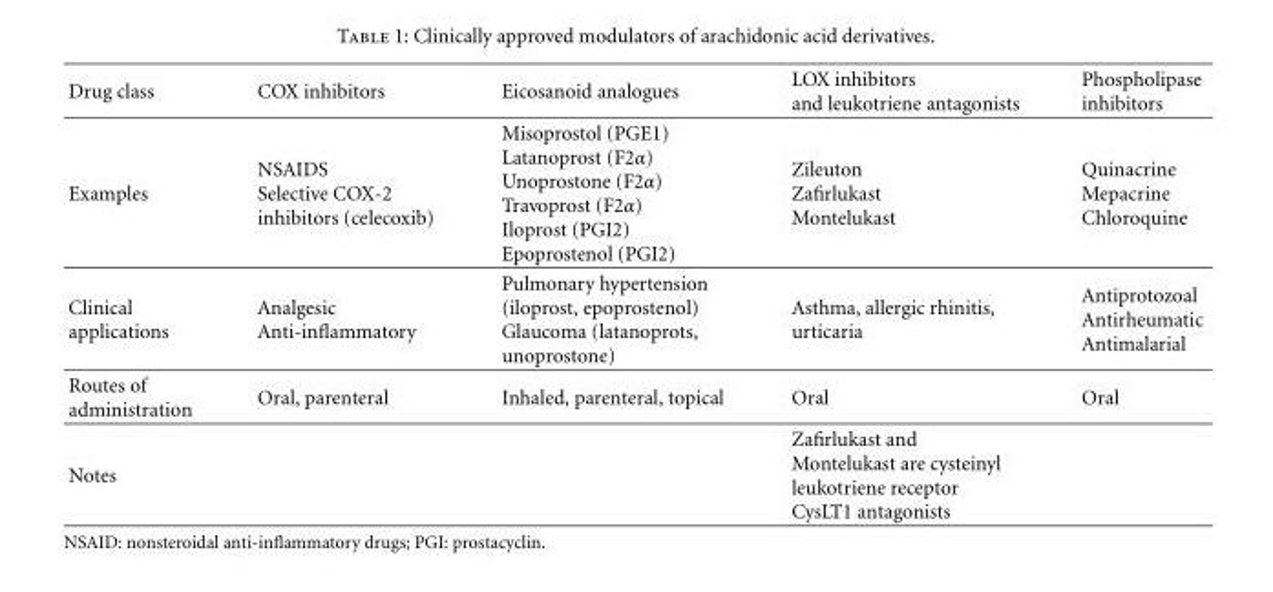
<table><thead><tr><td>Drug class</td><td>COX inhibitors</td><td>Eicosanoid analogues</td><td>LOX inhibitors and leukotriene antagonists</td><td>Phospholipase inhibitors</td></tr></thead><tbody><tr><td>Examples</td><td>NSAIDS Selective COX-2 inhibitors (celecoxib)</td><td>Misoprostol (PGE1) Latanoprost (F2α) Unoprostone (F2α) Travoprost (F2α) Iloprost (PGI2) Epoprostenol (PGI2)</td><td>Zileuton Zafirlukast Montelukast</td><td>Quinacrine Mepacrine Chloroquine</td></tr><tr><td>Clinical applications</td><td>Analgesic Anti-inflammatory</td><td>Pulmonary hypertension (iloprost, epoprostenol) Glaucoma (latanoprots, unoprostone)</td><td>Asthma, allergic rhinitis, urticaria</td><td>Antiprotozoal Antirheumatic Antimalarial</td></tr><tr><td>Routes of administration</td><td>Oral, parenteral</td><td>Inhaled, parenteral, topical</td><td>Oral</td><td>Oral</td></tr><tr><td>Notes</td><td></td><td></td><td>Zafirlukast and Montelukast are cysteinyl leukotriene receptor CysLT1 antagonists</td><td></td></tr></tbody></table>